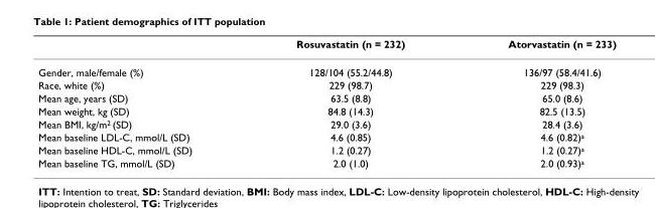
<table><thead><tr><td></td><td>Rosuvastatin (n = 232)</td><td>Atorvastatin (n = 233)</td></tr></thead><tbody><tr><td>Gender, male/female (%)</td><td>128/104 (55.2/44.8)</td><td>136/97 (58.4/41.6)</td></tr><tr><td>Race, white (%)</td><td>229 (98.7)</td><td>229 (98.3)</td></tr><tr><td>Mean age, years (SD)</td><td>63.5 (8.8)</td><td>65.0 (8.6)</td></tr><tr><td>Mean weight, kg (SD)</td><td>84.8 (14.3)</td><td>82.5 (13.5)</td></tr><tr><td>Mean BMI, kg/m<sup>2</sup> (SD)</td><td>29.0 (3.6)</td><td>28.4 (3.6)</td></tr><tr><td>Mean baseline LDL-C, mmol/L (SD)</td><td>4.6 (0.85)</td><td>4.6 (0.82)<sup>a</sup></td></tr><tr><td>Mean baseline HDL-C, mmol/L (SD)</td><td>1.2 (0.27)</td><td>1.2 (0.27)<sup>a</sup></td></tr><tr><td>Mean baseline TG, mmol/L (SD)</td><td>2.0 (1.0)</td><td>2.0 (0.93)<sup>a</sup></td></tr></tbody></table>